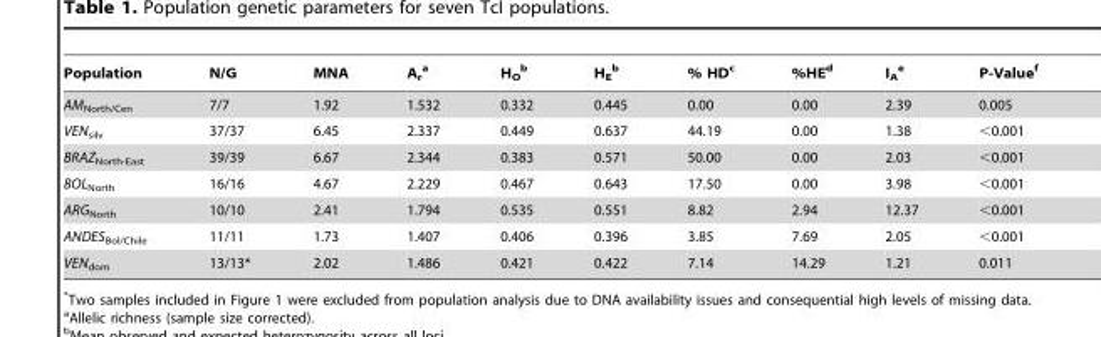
<table><thead><tr><td>Population</td><td>N/G</td><td>MNA</td><td>A<sub>r</sub> a</td><td>H<sub>O</sub> b</td><td>H<sub>E</sub> b</td><td>% HD<sup>c</sup></td><td>%HE<sup>d</sup></td><td>I<sub>A</sub> e</td><td>P-Value<sup>f</sup></td></tr></thead><tbody><tr><td>AM<sub>North/Cen</sub></td><td>7/7</td><td>1.92</td><td>1.532</td><td>0.332</td><td>0.445</td><td>0.00</td><td>0.00</td><td>2.39</td><td>0.005</td></tr><tr><td>VEN<sub>silv</sub></td><td>37/37</td><td>6.45</td><td>2.337</td><td>0.449</td><td>0.637</td><td>44.19</td><td>0.00</td><td>1.38</td><td>&lt;0.001</td></tr><tr><td>BRAZ<sub>North-East</sub></td><td>39/39</td><td>6.67</td><td>2.344</td><td>0.383</td><td>0.571</td><td>50.00</td><td>0.00</td><td>2.03</td><td>&lt;0.001</td></tr><tr><td>BOL<sub>North</sub></td><td>16/16</td><td>4.67</td><td>2.229</td><td>0.467</td><td>0.643</td><td>17.50</td><td>0.00</td><td>3.98</td><td>&lt;0.001</td></tr><tr><td>ARG<sub>North</sub></td><td>10/10</td><td>2.41</td><td>1.794</td><td>0.535</td><td>0.551</td><td>8.82</td><td>2.94</td><td>12.37</td><td>&lt;0.001</td></tr><tr><td>ANDES<sub>Bol/Chile</sub></td><td>11/11</td><td>1.73</td><td>1.407</td><td>0.406</td><td>0.396</td><td>3.85</td><td>7.69</td><td>2.05</td><td>&lt;0.001</td></tr><tr><td>VEN<sub>dom</sub></td><td>13/13*</td><td>2.02</td><td>1.486</td><td>0.421</td><td>0.422</td><td>7.14</td><td>14.29</td><td>1.21</td><td>0.011</td></tr></tbody></table>